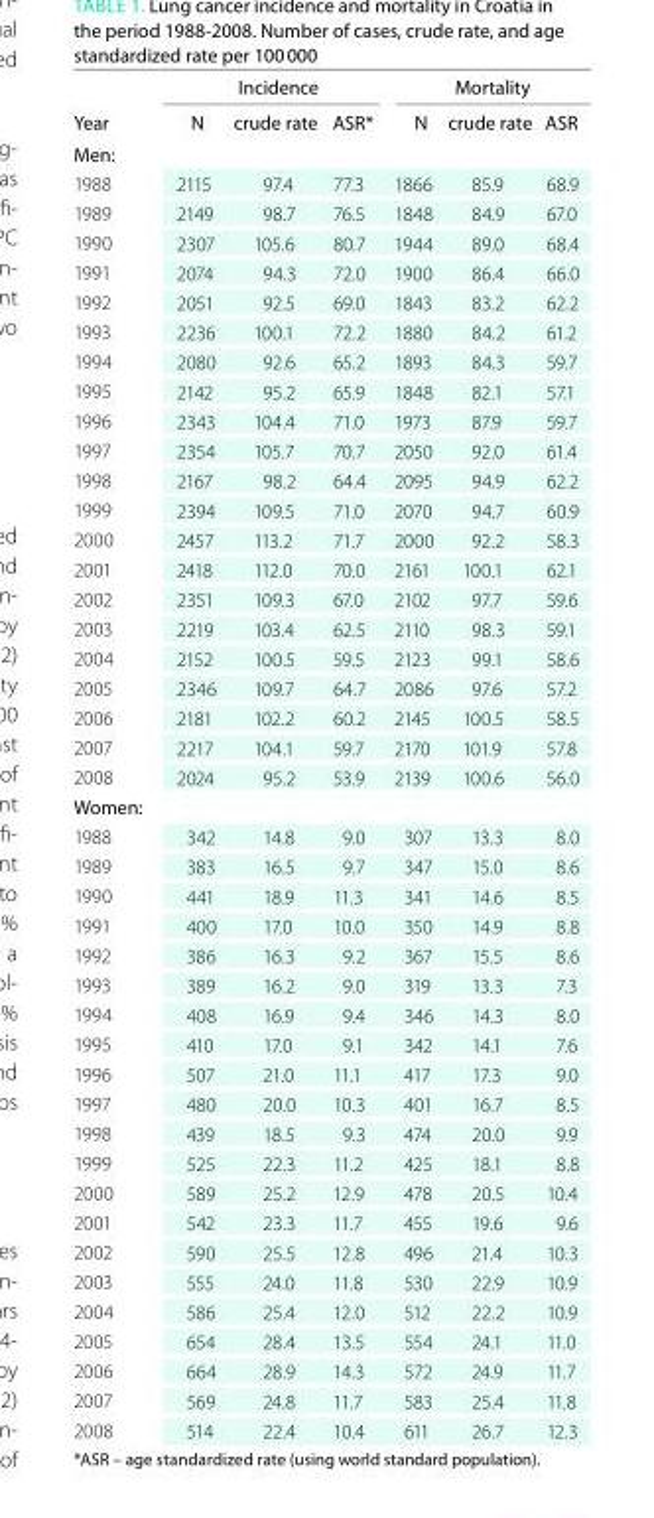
<table><thead><tr><td rowspan="2">Year</td><td colspan="3">incidence</td><td colspan="3">Mortality</td></tr><tr><td>n</td><td>crude rate</td><td>ASr*</td><td>n</td><td>crude rate</td><td>ASr</td></tr></thead><tbody><tr><td colspan="7">Men:</td></tr><tr><td>1988</td><td>2115</td><td>97.4</td><td>77.3</td><td>1866</td><td>85.9</td><td>68.9</td></tr><tr><td>1989</td><td>2149</td><td>98.7</td><td>76.5</td><td>1848</td><td>84.9</td><td>67.0</td></tr><tr><td>1990</td><td>2307</td><td>105.6</td><td>80.7</td><td>1944</td><td>89.0</td><td>68.4</td></tr><tr><td>1991</td><td>2074</td><td>94.3</td><td>72.0</td><td>1900</td><td>86.4</td><td>66.0</td></tr><tr><td>1992</td><td>2051</td><td>92.5</td><td>69.0</td><td>1843</td><td>83.2</td><td>62.2</td></tr><tr><td>1993</td><td>2236</td><td>100.1</td><td>72.2</td><td>1880</td><td>84.2</td><td>61.2</td></tr><tr><td>1994</td><td>2080</td><td>92.6</td><td>65.2</td><td>1893</td><td>84.3</td><td>59.7</td></tr><tr><td>1995</td><td>2142</td><td>95.2</td><td>65.9</td><td>1848</td><td>82.1</td><td>57.1</td></tr><tr><td>1996</td><td>2343</td><td>104.4</td><td>71.0</td><td>1973</td><td>87.9</td><td>59.7</td></tr><tr><td>1997</td><td>2354</td><td>105.7</td><td>70.7</td><td>2050</td><td>92.0</td><td>61.4</td></tr><tr><td>1998</td><td>2167</td><td>98.2</td><td>64.4</td><td>2095</td><td>94.9</td><td>62.2</td></tr><tr><td>1999</td><td>2394</td><td>109.5</td><td>71.0</td><td>2070</td><td>94.7</td><td>60.9</td></tr><tr><td>2000</td><td>2457</td><td>113.2</td><td>71.7</td><td>2000</td><td>92.2</td><td>58.3</td></tr><tr><td>2001</td><td>2418</td><td>112.0</td><td>70.0</td><td>2161</td><td>100.1</td><td>62.1</td></tr><tr><td>2002</td><td>2351</td><td>109.3</td><td>67.0</td><td>2102</td><td>97.7</td><td>59.6</td></tr><tr><td>2003</td><td>2219</td><td>103.4</td><td>62.5</td><td>2110</td><td>98.3</td><td>59.1</td></tr><tr><td>2004</td><td>2152</td><td>100.5</td><td>59.5</td><td>2123</td><td>99.1</td><td>58.6</td></tr><tr><td>2005</td><td>2346</td><td>109.7</td><td>64.7</td><td>2086</td><td>97.6</td><td>57.2</td></tr><tr><td>2006</td><td>2181</td><td>102.2</td><td>60.2</td><td>2145</td><td>100.5</td><td>58.5</td></tr><tr><td>2007</td><td>2217</td><td>104.1</td><td>59.7</td><td>2170</td><td>101.9</td><td>57.8</td></tr><tr><td>2008</td><td>2024</td><td>95.2</td><td>53.9</td><td>2139</td><td>100.6</td><td>56.0</td></tr><tr><td colspan="7">Women:</td></tr><tr><td>1988</td><td>342</td><td>14.8</td><td>9.0</td><td>307</td><td>13.3</td><td>8.0</td></tr><tr><td>1989</td><td>383</td><td>16.5</td><td>9.7</td><td>347</td><td>15.0</td><td>8.6</td></tr><tr><td>1990</td><td>441</td><td>18.9</td><td>11.3</td><td>341</td><td>14.6</td><td>8.5</td></tr><tr><td>1991</td><td>400</td><td>17.0</td><td>10.0</td><td>350</td><td>14.9</td><td>8.8</td></tr><tr><td>1992</td><td>386</td><td>16.3</td><td>9.2</td><td>367</td><td>15.5</td><td>8.6</td></tr><tr><td>1993</td><td>389</td><td>16.2</td><td>9.0</td><td>319</td><td>13.3</td><td>7.3</td></tr><tr><td>1994</td><td>408</td><td>16.9</td><td>9.4</td><td>346</td><td>14.3</td><td>8.0</td></tr><tr><td>1995</td><td>410</td><td>17.0</td><td>9.1</td><td>342</td><td>14.1</td><td>7.6</td></tr><tr><td>1996</td><td>507</td><td>21.0</td><td>11.1</td><td>417</td><td>17.3</td><td>9.0</td></tr><tr><td>1997</td><td>480</td><td>20.0</td><td>10.3</td><td>401</td><td>16.7</td><td>8.5</td></tr><tr><td>1998</td><td>439</td><td>18.5</td><td>9.3</td><td>474</td><td>20.0</td><td>9.9</td></tr><tr><td>1999</td><td>525</td><td>22.3</td><td>11.2</td><td>425</td><td>18.1</td><td>8.8</td></tr><tr><td>2000</td><td>589</td><td>25.2</td><td>12.9</td><td>478</td><td>20.5</td><td>10.4</td></tr><tr><td>2001</td><td>542</td><td>23.3</td><td>11.7</td><td>455</td><td>19.6</td><td>9.6</td></tr><tr><td>2002</td><td>590</td><td>25.5</td><td>12.8</td><td>496</td><td>21.4</td><td>10.3</td></tr><tr><td>2003</td><td>555</td><td>24.0</td><td>11.8</td><td>530</td><td>22.9</td><td>10.9</td></tr><tr><td>2004</td><td>586</td><td>25.4</td><td>12.0</td><td>512</td><td>22.2</td><td>10.9</td></tr><tr><td>2005</td><td>654</td><td>28.4</td><td>13.5</td><td>554</td><td>24.1</td><td>11.0</td></tr><tr><td>2006</td><td>664</td><td>28.9</td><td>14.3</td><td>572</td><td>24.9</td><td>11.7</td></tr><tr><td>2007</td><td>569</td><td>24.8</td><td>11.7</td><td>583</td><td>25.4</td><td>11.8</td></tr><tr><td>2008</td><td>514</td><td>22.4</td><td>10.4</td><td>611</td><td>26.7</td><td>12.3</td></tr></tbody></table>